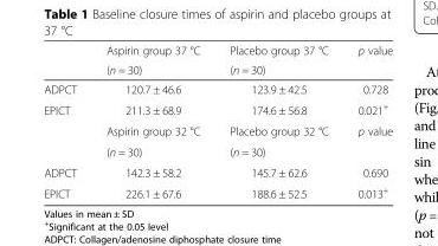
<table><thead><tr><td rowspan="2"></td><td rowspan="2">Aspirin group 37 °C (n = 30)</td><td rowspan="2">Placebo group 37 °C (n = 30)</td><td rowspan="2">p value</td></tr><tr></tr></thead><tbody><tr><td>ADPCT</td><td>120.7 ± 46.6</td><td>123.9 ± 42.5</td><td>0.728</td></tr><tr><td rowspan="3">EPICT</td><td>211.3 ± 68.9</td><td>174.6 ± 56.8</td><td>0.021<sup>+</sup></td></tr><tr><td>Aspirin group 32 °C</td><td>Placebo group 32 °C</td><td rowspan="2">p value</td></tr><tr><td>(n = 30)</td><td>(n = 30)</td></tr><tr><td>ADPCT</td><td>142.3 ± 58.2</td><td>145.7 ± 62.6</td><td>0.690</td></tr><tr><td>EPICT</td><td>226.1 ± 67.6</td><td>188.6 ± 52.5</td><td>0.013<sup>+</sup></td></tr></tbody></table>